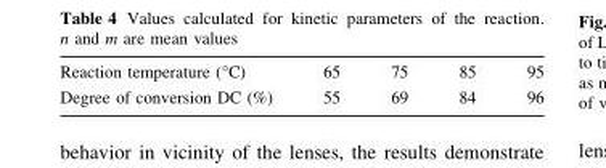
<table><tbody><tr><td>Reaction temperature (°C)</td><td>65</td><td>75</td><td>85</td><td>95</td></tr><tr><td>Degree of conversion DC (%)</td><td>55</td><td>69</td><td>84</td><td>96</td></tr></tbody></table>